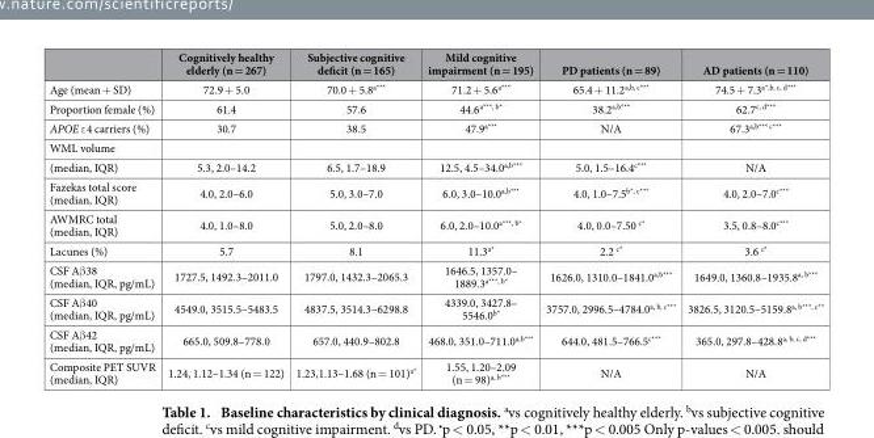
<table><thead><tr><td></td><td>Cognitively healthy elderly (n = 267)</td><td>Subjective cognitive deficit (n = 165)</td><td>Mild cognitive impairment (n = 195)</td><td>PD patients (n = 89)</td><td>AD patients (n = 110)</td></tr></thead><tbody><tr><td>Age (mean + SD)</td><td>72.9 + 5.0</td><td>70.0 + 5.8a***</td><td>71.2 + 5.6a***</td><td>65.4 + 11.2a,b, c***</td><td>74.5 + 7.3a*,b, c, d***</td></tr><tr><td>Proportion female (%)</td><td>61.4</td><td>57.6</td><td>44.6a***, b*</td><td>38.2a,b***</td><td>62.7c, d***</td></tr><tr><td>APOE ε 4 carriers (%)</td><td>30.7</td><td>38.5</td><td>47.9a***</td><td>N/A</td><td>67.3a,b*** c***</td></tr><tr><td colspan="6">WML volume</td></tr><tr><td>(median, IQR)</td><td>5.3, 2.0–14.2</td><td>6.5, 1.7–18.9</td><td>12.5, 4.5–34.0a,b***</td><td>5.0, 1.5–16.4c***</td><td>N/A</td></tr><tr><td>Fazekas total score (median, IQR)</td><td>4.0, 2.0–6.0</td><td>5.0, 3.0–7.0</td><td>6.0, 3.0–10.0a,b***</td><td>4.0, 1.0–7.5b*, c***</td><td>4.0, 2.0–7.0c***</td></tr><tr><td>AWMRC total (median, IQR)</td><td>4.0, 1.0–8.0</td><td>5.0, 2.0–8.0</td><td>6.0, 2.0–10.0a***, b*</td><td>4.0, 0.0–7.50 c*</td><td>3.5, 0.8–8.0c***</td></tr><tr><td>Lacunes (%)</td><td>5.7</td><td>8.1</td><td>11.3a*</td><td>2.2 c*</td><td>3.6 c*</td></tr><tr><td>CSF Aβ 38 (median, IQR, pg/mL)</td><td>1727.5, 1492.3–2011.0</td><td>1797.0, 1432.3–2065.3</td><td>1646.5, 1357.0– 1889.3a***, b*</td><td>1626.0, 1310.0–1841.0a,b***</td><td>1649.0, 1360.8–1935.8a, b***</td></tr><tr><td>CSF Aβ 40 (median, IQR, pg/mL)</td><td>4549.0, 3515.5–5483.5</td><td>4837.5, 3514.3–6298.8</td><td>4339.0, 3427.8– 5546.0b*</td><td>3757.0, 2996.5–4784.0a, b, c***</td><td>3826.5, 3120.5–5159.8a, b***, c**</td></tr><tr><td>CSF Aβ 42 (median, IQR, pg/mL)</td><td>665.0, 509.8–778.0</td><td>657.0, 440.9–802.8</td><td>468.0, 351.0–711.0a,b***</td><td>644.0, 481.5–766.5c***</td><td>365.0, 297.8–428.8a, b, c, d***</td></tr><tr><td>Composite PET SUVR (median, IQR)</td><td>1.24, 1.12–1.34 (n = 122)</td><td>1.23,1.13–1.68 (n = 101)a*</td><td>1.55, 1.20–2.09 (n = 98)a, b***</td><td>N/A</td><td>N/A</td></tr></tbody></table>